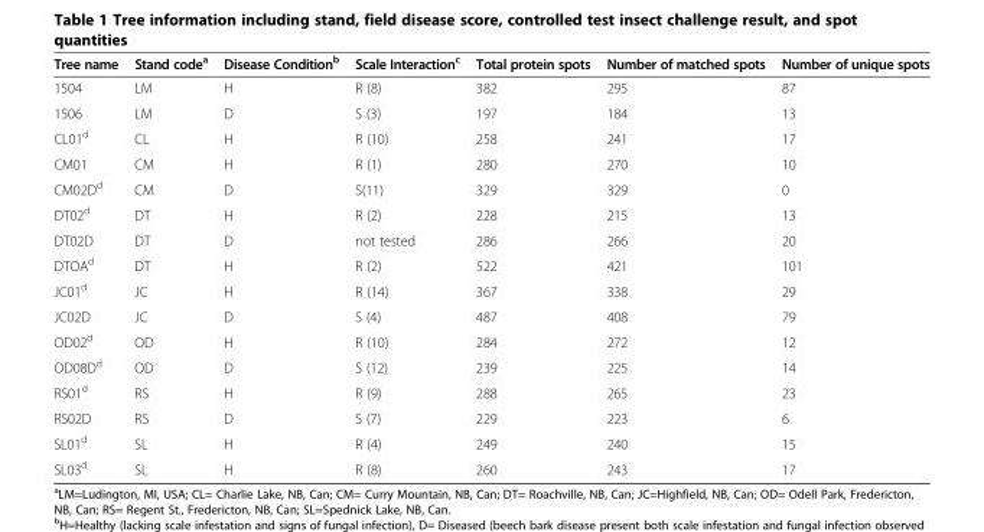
<table><thead><tr><td>Tree name</td><td>Stand code<sup>a</sup></td><td>Disease Condition<sup>b</sup></td><td>Scale Interaction<sup>c</sup></td><td>Total protein spots</td><td>Number of matched spots</td><td>Number of unique spots</td></tr></thead><tbody><tr><td>1504</td><td>LM</td><td>H</td><td>R (8)</td><td>382</td><td>295</td><td>87</td></tr><tr><td>1506</td><td>LM</td><td>D</td><td>S (3)</td><td>197</td><td>184</td><td>13</td></tr><tr><td>CL01<sup>d</sup></td><td>CL</td><td>H</td><td>R (10)</td><td>258</td><td>241</td><td>17</td></tr><tr><td>CM01</td><td>CM</td><td>H</td><td>R (1)</td><td>280</td><td>270</td><td>10</td></tr><tr><td>CM02D<sup>d</sup></td><td>CM</td><td>D</td><td>S(11)</td><td>329</td><td>329</td><td>0</td></tr><tr><td>DT02<sup>d</sup></td><td>DT</td><td>H</td><td>R (2)</td><td>228</td><td>215</td><td>13</td></tr><tr><td>DT02D</td><td>DT</td><td>D</td><td>not tested</td><td>286</td><td>266</td><td>20</td></tr><tr><td>DTOA<sup>d</sup></td><td>DT</td><td>H</td><td>R (2)</td><td>522</td><td>421</td><td>101</td></tr><tr><td>JC01<sup>d</sup></td><td>JC</td><td>H</td><td>R (14)</td><td>367</td><td>338</td><td>29</td></tr><tr><td>JC02D</td><td>JC</td><td>D</td><td>S (4)</td><td>487</td><td>408</td><td>79</td></tr><tr><td>OD02<sup>d</sup></td><td>OD</td><td>H</td><td>R (10)</td><td>284</td><td>272</td><td>12</td></tr><tr><td>OD08D<sup>d</sup></td><td>OD</td><td>D</td><td>S (12)</td><td>239</td><td>225</td><td>14</td></tr><tr><td>RS01<sup>d</sup></td><td>RS</td><td>H</td><td>R (9)</td><td>288</td><td>265</td><td>23</td></tr><tr><td>RS02D</td><td>RS</td><td>D</td><td>S (7)</td><td>229</td><td>223</td><td>6</td></tr><tr><td>SL01<sup>d</sup></td><td>SL</td><td>H</td><td>R (4)</td><td>249</td><td>240</td><td>15</td></tr><tr><td>SL03<sup>d</sup></td><td>SL</td><td>H</td><td>R (8)</td><td>260</td><td>243</td><td>17</td></tr></tbody></table>